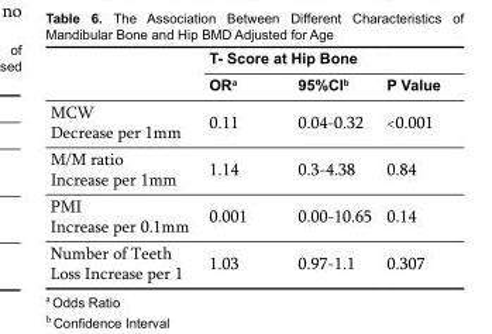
<table><thead><tr><td rowspan="2"></td><td colspan="3">T- Score at Hip Bone</td></tr><tr><td>OR<sup>a</sup></td><td>95%CI<sup>b</sup></td><td>P Value</td></tr></thead><tbody><tr><td>MCW Decrease per 1mm</td><td>0.11</td><td>0.04-0.32</td><td>&lt;0.001</td></tr><tr><td>M/M ratio Increase per 1mm</td><td>1.14</td><td>0.3-4.38</td><td>0.84</td></tr><tr><td>PMI Increase per 0.1mm</td><td>0.001</td><td>0.00-10.65</td><td>0.14</td></tr><tr><td>Number of Teeth Loss Increase per 1</td><td>1.03</td><td>0.97-1.1</td><td>0.307</td></tr></tbody></table>